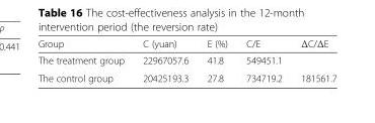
<table><thead><tr><td>Group</td><td>C (yuan)</td><td>E (%)</td><td>C/E</td><td>ΔC/ΔE</td></tr></thead><tbody><tr><td>The treatment group</td><td>22967057.6</td><td>41.8</td><td>549451.1</td><td></td></tr><tr><td>The control group</td><td>20425193.3</td><td>27.8</td><td>734719.2</td><td>181561.7</td></tr></tbody></table>